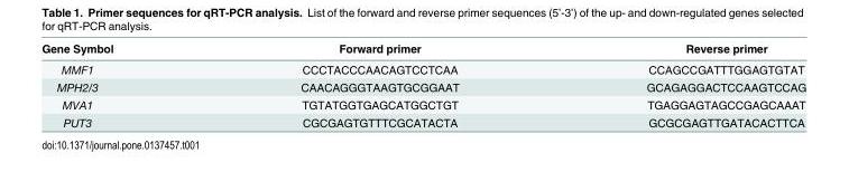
<table><thead><tr><td>Gene Symbol</td><td>Forward primer</td><td>Reverse primer</td></tr></thead><tbody><tr><td>MMF1</td><td>CCCTACCCAACAGTCCTCAA</td><td>CCAGCCGATTTGGAGTGTAT</td></tr><tr><td>MPH2/3</td><td>CAACAGGGTAAGTGCGGAAT</td><td>GCAGAGGACTCCAAGTCCAG</td></tr><tr><td>MVA1</td><td>TGTATGGTGAGCATGGCTGT</td><td>TGAGGAGTAGCCGAGCAAAT</td></tr><tr><td>PUT3</td><td>CGCGAGTGTTTCGCATACTA</td><td>GCGCGAGTTGATACACTTCA</td></tr></tbody></table>